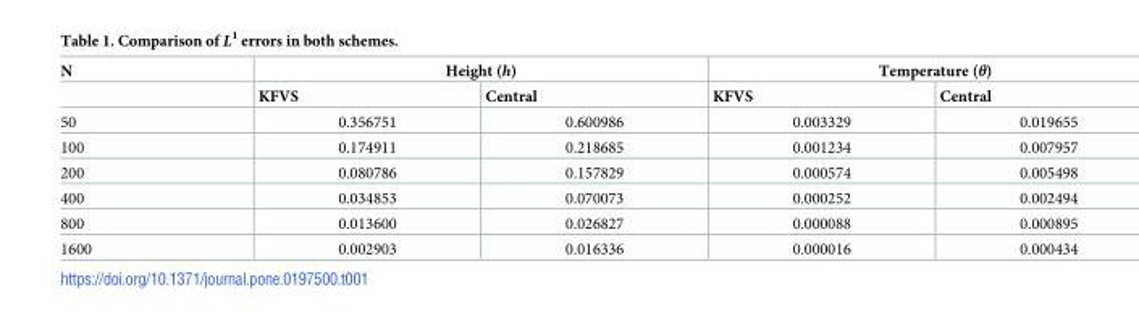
<table><thead><tr><td rowspan="2">N</td><td colspan="2">Height (h)</td><td colspan="2">Temperature (θ)</td></tr><tr><td>KFVS</td><td>Central</td><td>KFVS</td><td>Central</td></tr></thead><tbody><tr><td>50</td><td>0.356751</td><td>0.600986</td><td>0.003329</td><td>0.019655</td></tr><tr><td>100</td><td>0.174911</td><td>0.218685</td><td>0.001234</td><td>0.007957</td></tr><tr><td>200</td><td>0.080786</td><td>0.157829</td><td>0.000574</td><td>0.005498</td></tr><tr><td>400</td><td>0.034853</td><td>0.070073</td><td>0.000252</td><td>0.002494</td></tr><tr><td>800</td><td>0.013600</td><td>0.026827</td><td>0.000088</td><td>0.000895</td></tr><tr><td>1600</td><td>0.002903</td><td>0.016336</td><td>0.000016</td><td>0.000434</td></tr></tbody></table>